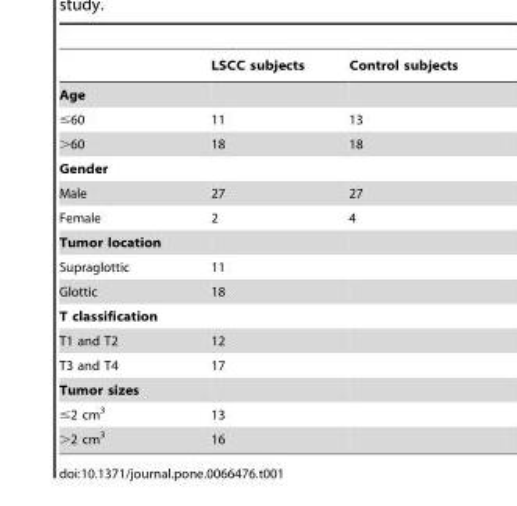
<table><thead><tr><td></td><td>LSCC subjects</td><td>Control subjects</td></tr></thead><tbody><tr><td colspan="3">Age</td></tr><tr><td>≤60</td><td>11</td><td>13</td></tr><tr><td>&gt;60</td><td>18</td><td>18</td></tr><tr><td colspan="3">Gender</td></tr><tr><td>Male</td><td>27</td><td>27</td></tr><tr><td>Female</td><td>2</td><td>4</td></tr><tr><td colspan="3">Tumor location</td></tr><tr><td>Supraglottic</td><td>11</td><td></td></tr><tr><td>Glottic</td><td>18</td><td></td></tr><tr><td colspan="3">T classification</td></tr><tr><td>T1 and T2</td><td>12</td><td></td></tr><tr><td>T3 and T4</td><td>17</td><td></td></tr><tr><td colspan="3">Tumor sizes</td></tr><tr><td>≤2 cm<sup>3</sup></td><td>13</td><td></td></tr><tr><td>&gt;2 cm<sup>3</sup></td><td>16</td><td></td></tr></tbody></table>